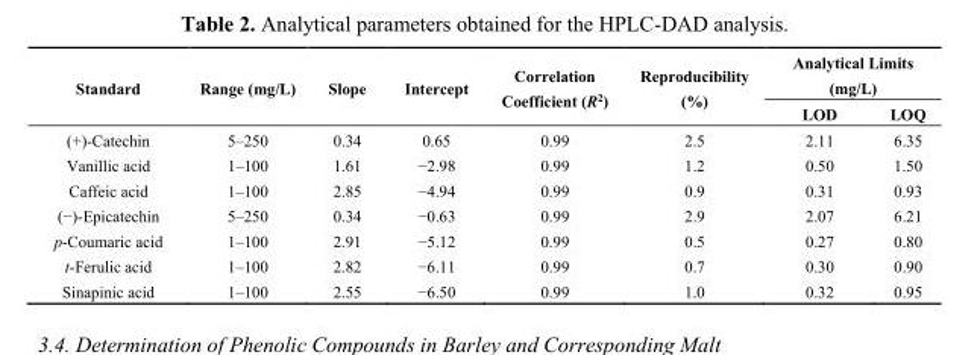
<table><thead><tr><td rowspan="2">Standard</td><td rowspan="2">Range (mg/L)</td><td rowspan="2">Slope</td><td rowspan="2">Intercept</td><td rowspan="2">Correlation Coefficient (R<sup>2</sup>)</td><td rowspan="2">Reproducibility (%)</td><td colspan="2">Analytical Limits (mg/L)</td></tr><tr><td>LOD</td><td>LOQ</td></tr></thead><tbody><tr><td>(+)-Catechin</td><td>5–250</td><td>0.34</td><td>0.65</td><td>0.99</td><td>2.5</td><td>2.11</td><td>6.35</td></tr><tr><td>Vanillic acid</td><td>1–100</td><td>1.61</td><td>−2.98</td><td>0.99</td><td>1.2</td><td>0.50</td><td>1.50</td></tr><tr><td>Caffeic acid</td><td>1–100</td><td>2.85</td><td>−4.94</td><td>0.99</td><td>0.9</td><td>0.31</td><td>0.93</td></tr><tr><td>(−)-Epicatechin</td><td>5–250</td><td>0.34</td><td>−0.63</td><td>0.99</td><td>2.9</td><td>2.07</td><td>6.21</td></tr><tr><td>p-Coumaric acid</td><td>1–100</td><td>2.91</td><td>−5.12</td><td>0.99</td><td>0.5</td><td>0.27</td><td>0.80</td></tr><tr><td>t-Ferulic acid</td><td>1–100</td><td>2.82</td><td>−6.11</td><td>0.99</td><td>0.7</td><td>0.30</td><td>0.90</td></tr><tr><td>Sinapinic acid</td><td>1–100</td><td>2.55</td><td>−6.50</td><td>0.99</td><td>1.0</td><td>0.32</td><td>0.95</td></tr></tbody></table>